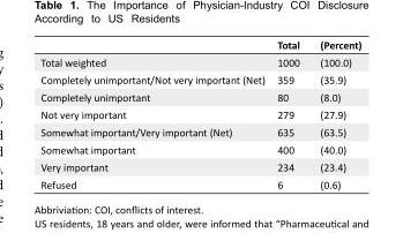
<table><thead><tr><td></td><td>Total</td><td>(Percent)</td></tr></thead><tbody><tr><td>Total weighted</td><td>1000</td><td>(100.0)</td></tr><tr><td>Completely unimportant/Not very important (Net)</td><td>359</td><td>(35.9)</td></tr><tr><td>Completely unimportant</td><td>80</td><td>(8.0)</td></tr><tr><td>Not very important</td><td>279</td><td>(27.9)</td></tr><tr><td>Somewhat important/Very important (Net)</td><td>635</td><td>(63.5)</td></tr><tr><td>Somewhat important</td><td>400</td><td>(40.0)</td></tr><tr><td>Very important</td><td>234</td><td>(23.4)</td></tr><tr><td>Refused</td><td>6</td><td>(0.6)</td></tr></tbody></table>